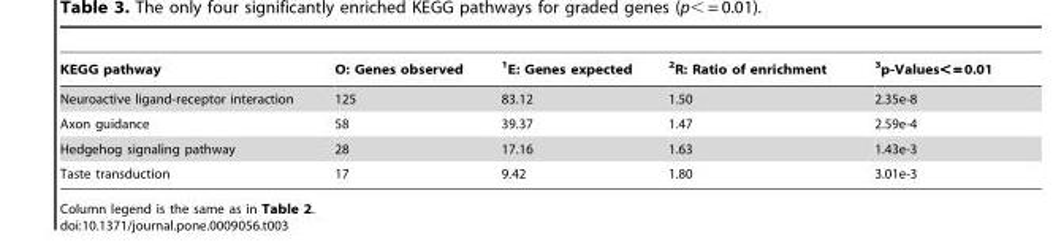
<table><thead><tr><td>KEGG pathway</td><td>O: Genes observed</td><td><sup>1</sup>E: Genes expected</td><td><sup>2</sup>R: Ratio of enrichment</td><td><sup>3</sup>p-Values&lt; = 0.01</td></tr></thead><tbody><tr><td>Neuroactive ligand-receptor interaction</td><td>125</td><td>83.12</td><td>1.50</td><td>2.35e-8</td></tr><tr><td>Axon guidance</td><td>58</td><td>39.37</td><td>1.47</td><td>2.59e-4</td></tr><tr><td>Hedgehog signaling pathway</td><td>28</td><td>17.16</td><td>1.63</td><td>1.43e-3</td></tr><tr><td>Taste transduction</td><td>17</td><td>9.42</td><td>1.80</td><td>3.01e-3</td></tr></tbody></table>